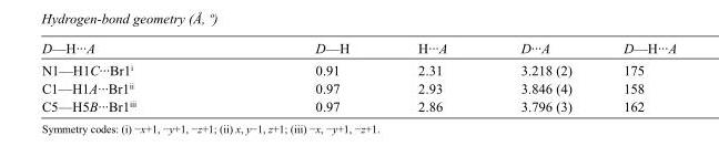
<table><tbody><tr><td>D—H···A</td><td>D—H</td><td>H···A</td><td>D···A</td><td>D—H···A</td></tr><tr><td>N1—H1C···Br1<sup>i</sup></td><td>0.91</td><td>2.31</td><td>3.218 (2)</td><td>175</td></tr><tr><td>C1—H1A···Br1<sup>ii</sup></td><td>0.97</td><td>2.93</td><td>3.846 (4)</td><td>158</td></tr><tr><td>C5—H5B···Br1<sup>iii</sup></td><td>0.97</td><td>2.86</td><td>3.796 (3)</td><td>162</td></tr></tbody></table>